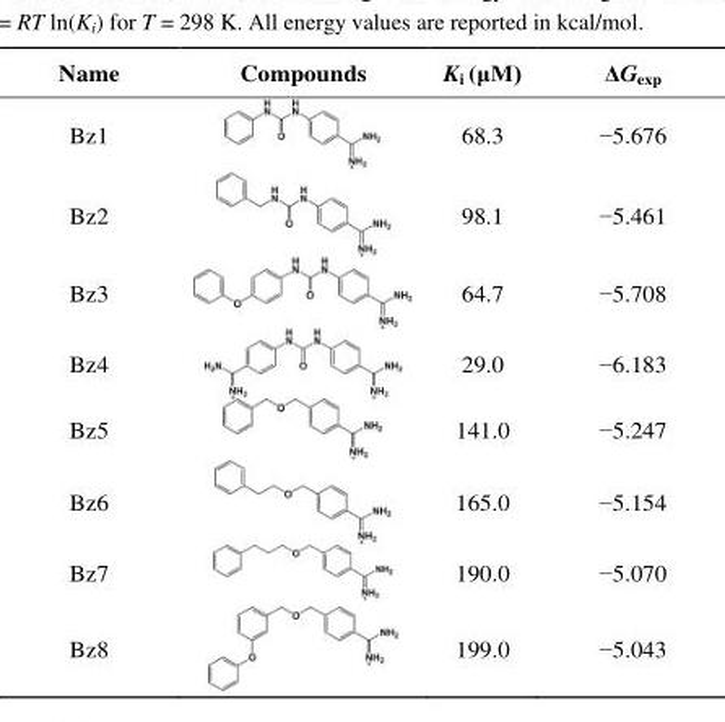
<table><thead><tr><td>Name</td><td>Compounds</td><td>K<sub>i</sub> (μM)</td><td>ΔG<sub>exp</sub></td></tr></thead><tbody><tr><td>Bz1</td><td></td><td>68.3</td><td>−5.676</td></tr><tr><td>Bz2</td><td></td><td>98.1</td><td>−5.461</td></tr><tr><td>Bz3</td><td></td><td>64.7</td><td>−5.708</td></tr><tr><td>Bz4</td><td></td><td>29.0</td><td>−6.183</td></tr><tr><td>Bz5</td><td></td><td>141.0</td><td>−5.247</td></tr><tr><td>Bz6</td><td></td><td>165.0</td><td>−5.154</td></tr><tr><td>Bz7</td><td></td><td>190.0</td><td>−5.070</td></tr><tr><td>Bz8</td><td></td><td>199.0</td><td>−5.043</td></tr></tbody></table>